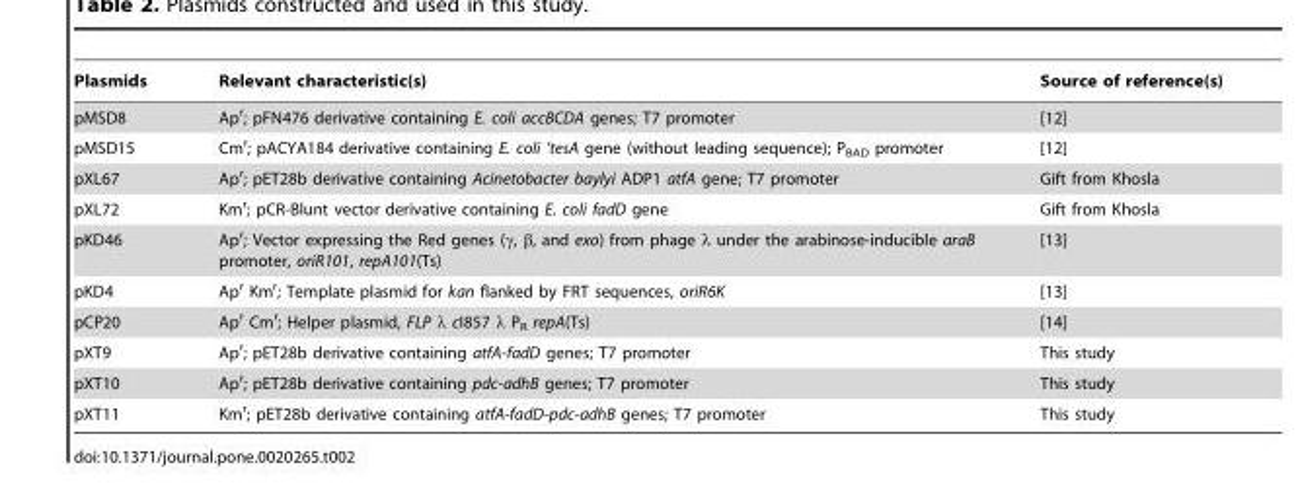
<table><thead><tr><td>Plasmids</td><td>Relevant characteristic(s)</td><td>Source of reference(s)</td></tr></thead><tbody><tr><td>pMSD8</td><td>Ap<sup>r</sup>; pFN476 derivative containing E. coli accBCDA genes; T7 promoter</td><td>[12]</td></tr><tr><td>pMSD15</td><td>Cm<sup>r</sup>; pACYA184 derivative containing E. coli ’tesA gene (without leading sequence); P<sub>BAD</sub> promoter</td><td>[12]</td></tr><tr><td>pXL67</td><td>Ap<sup>r</sup>; pET28b derivative containing Acinetobacter baylyi ADP1 atfA gene; T7 promoter</td><td>Gift from Khosla</td></tr><tr><td>pXL72</td><td>Km<sup>r</sup>; pCR-Blunt vector derivative containing E. coli fadD gene</td><td>Gift from Khosla</td></tr><tr><td>pKD46</td><td>Ap<sup>r</sup>; Vector expressing the Red genes (γ, β, and exo) from phage λ under the arabinose-inducible araB promoter, oriR101, repA101(Ts)</td><td>[13]</td></tr><tr><td>pKD4</td><td>Ap<sup>r</sup> Km<sup>r</sup>; Template plasmid for kan flanked by FRT sequences, oriR6K</td><td>[13]</td></tr><tr><td>pCP20</td><td>Ap<sup>r</sup> Cm<sup>r</sup>; Helper plasmid, FLP λ cI857 λ P<sub>R</sub> repA(Ts)</td><td>[14]</td></tr><tr><td>pXT9</td><td>Ap<sup>r</sup>; pET28b derivative containing atfA-fadD genes; T7 promoter</td><td>This study</td></tr><tr><td>pXT10</td><td>Ap<sup>r</sup>; pET28b derivative containing pdc-adhB genes; T7 promoter</td><td>This study</td></tr><tr><td>pXT11</td><td>Km<sup>r</sup>; pET28b derivative containing atfA-fadD-pdc-adhB genes; T7 promoter</td><td>This study</td></tr></tbody></table>